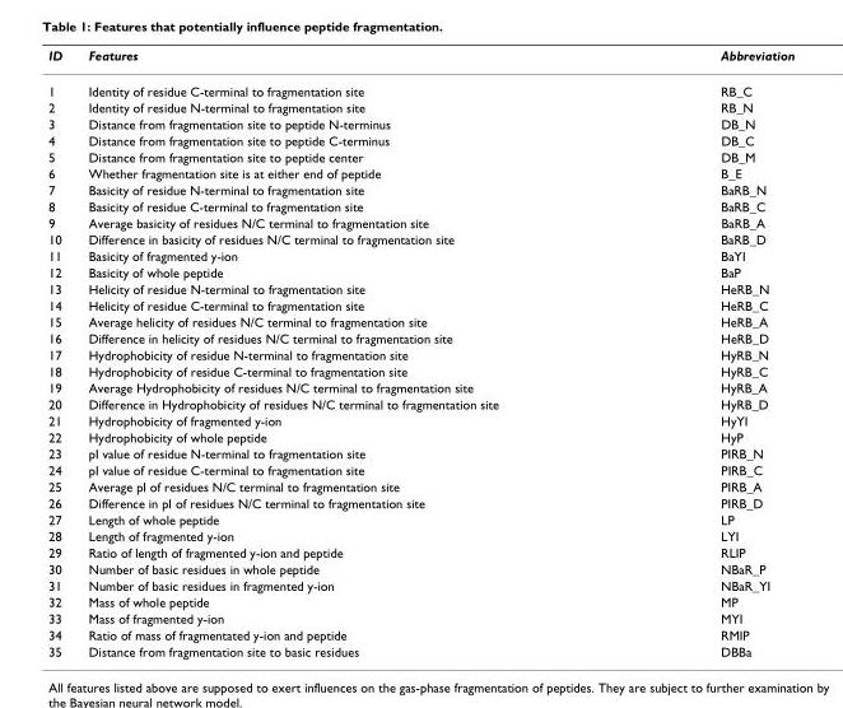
<table><thead><tr><td>ID</td><td>Features</td><td>Abbreviation</td></tr></thead><tbody><tr><td>1</td><td>Identity of residue C-terminal to fragmentation site</td><td>RB_C</td></tr><tr><td>2</td><td>Identity of residue N-terminal to fragmentation site</td><td>RB_N</td></tr><tr><td>3</td><td>Distance from fragmentation site to peptide N-terminus</td><td>DB_N</td></tr><tr><td>4</td><td>Distance from fragmentation site to peptide C-terminus</td><td>DB_C</td></tr><tr><td>5</td><td>Distance from fragmentation site to peptide center</td><td>DB_M</td></tr><tr><td>6</td><td>Whether fragmentation site is at either end of peptide</td><td>B_E</td></tr><tr><td>7</td><td>Basicity of residue N-terminal to fragmentation site</td><td>BaRB_N</td></tr><tr><td>8</td><td>Basicity of residue C-terminal to fragmentation site</td><td>BaRB_C</td></tr><tr><td>9</td><td>Average basicity of residues N/C terminal to fragmentation site</td><td>BaRB_A</td></tr><tr><td>10</td><td>Difference in basicity of residues N/C terminal to fragmentation site</td><td>BaRB_D</td></tr><tr><td>11</td><td>Basicity of fragmented y-ion</td><td>BaYI</td></tr><tr><td>12</td><td>Basicity of whole peptide</td><td>BaP</td></tr><tr><td>13</td><td>Helicity of residue N-terminal to fragmentation site</td><td>HeRB_N</td></tr><tr><td>14</td><td>Helicity of residue C-terminal to fragmentation site</td><td>HeRB_C</td></tr><tr><td>15</td><td>Average helicity of residues N/C terminal to fragmentation site</td><td>HeRB_A</td></tr><tr><td>16</td><td>Difference in helicity of residues N/C terminal to fragmentation site</td><td>HeRB_D</td></tr><tr><td>17</td><td>Hydrophobicity of residue N-terminal to fragmentation site</td><td>HyRB_N</td></tr><tr><td>18</td><td>Hydrophobicity of residue C-terminal to fragmentation site</td><td>HyRB_C</td></tr><tr><td>19</td><td>Average Hydrophobicity of residues N/C terminal to fragmentation site</td><td>HyRB_A</td></tr><tr><td>20</td><td>Difference in Hydrophobicity of residues N/C terminal to fragmentation site</td><td>HyRB_D</td></tr><tr><td>21</td><td>Hydrophobicity of fragmented y-ion</td><td>HyYI</td></tr><tr><td>22</td><td>Hydrophobicity of whole peptide</td><td>HyP</td></tr><tr><td>23</td><td>pI value of residue N-terminal to fragmentation site</td><td>PIRB_N</td></tr><tr><td>24</td><td>pI value of residue C-terminal to fragmentation site</td><td>PIRB_C</td></tr><tr><td>25</td><td>Average pI of residues N/C terminal to fragmentation site</td><td>PIRB_A</td></tr><tr><td>26</td><td>Difference in pI of residues N/C terminal to fragmentation site</td><td>PIRB_D</td></tr><tr><td>27</td><td>Length of whole peptide</td><td>LP</td></tr><tr><td>28</td><td>Length of fragmented y-ion</td><td>LYI</td></tr><tr><td>29</td><td>Ratio of length of fragmented y-ion and peptide</td><td>RLIP</td></tr><tr><td>30</td><td>Number of basic residues in whole peptide</td><td>NBaR_P</td></tr><tr><td>31</td><td>Number of basic residues in fragmented y-ion</td><td>NBaR_YI</td></tr><tr><td>32</td><td>Mass of whole peptide</td><td>MP</td></tr><tr><td>33</td><td>Mass of fragmented y-ion</td><td>MYI</td></tr><tr><td>34</td><td>Ratio of mass of fragmentated y-ion and peptide</td><td>RMIP</td></tr><tr><td>35</td><td>Distance from fragmentation site to basic residues</td><td>DBBa</td></tr></tbody></table>